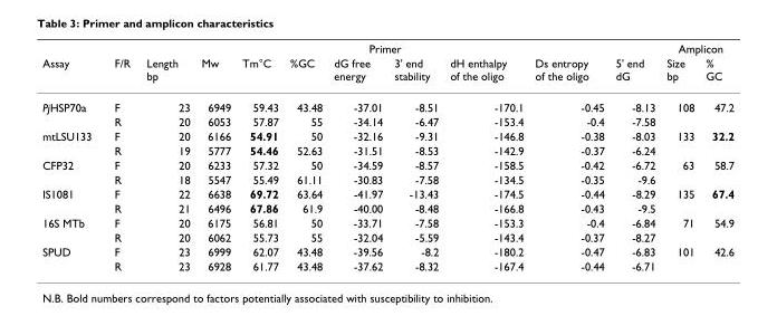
<table><thead><tr><td rowspan="2">Assay</td><td colspan="10">Primer</td><td colspan="2">Amplicon</td></tr><tr><td>F/R</td><td>Length bp</td><td>Mw</td><td>Tm°C</td><td>%GC</td><td>dG free energy</td><td>3&#x27; end stability</td><td>dH enthalpy of the oligo</td><td>Ds entropy of the oligo</td><td>5&#x27; end dG</td><td>Size bp</td><td>% GC</td></tr></thead><tbody><tr><td rowspan="2">PjHSP70a</td><td>F</td><td>23</td><td>6949</td><td>59.43</td><td>43.48</td><td>-37.01</td><td>-8.51</td><td>-170.1</td><td>-0.45</td><td>-8.13</td><td>108</td><td>47.2</td></tr><tr><td>R</td><td>20</td><td>6053</td><td>57.87</td><td>55</td><td>-34.14</td><td>-6.47</td><td>-153.4</td><td>-0.4</td><td>-7.58</td><td></td><td></td></tr><tr><td rowspan="2">mtLSU133</td><td>F</td><td>20</td><td>6166</td><td>54.91</td><td>50</td><td>-32.16</td><td>-9.31</td><td>-146.8</td><td>-0.38</td><td>-8.03</td><td>133</td><td>32.2</td></tr><tr><td>R</td><td>19</td><td>5777</td><td>54.46</td><td>52.63</td><td>-31.51</td><td>-8.53</td><td>-142.9</td><td>-0.37</td><td>-6.24</td><td></td><td></td></tr><tr><td rowspan="2">CFP32</td><td>F</td><td>20</td><td>6233</td><td>57.32</td><td>50</td><td>-34.59</td><td>-8.57</td><td>-158.5</td><td>-0.42</td><td>-6.72</td><td>63</td><td>58.7</td></tr><tr><td>R</td><td>18</td><td>5547</td><td>55.49</td><td>61.11</td><td>-30.83</td><td>-7.58</td><td>-134.5</td><td>-0.35</td><td>-9.6</td><td></td><td></td></tr><tr><td rowspan="2">IS1081</td><td>F</td><td>22</td><td>6638</td><td>69.72</td><td>63.64</td><td>-41.97</td><td>-13.43</td><td>-174.5</td><td>-0.44</td><td>-8.29</td><td>135</td><td>67.4</td></tr><tr><td>R</td><td>21</td><td>6496</td><td>67.86</td><td>61.9</td><td>-40.00</td><td>-8.48</td><td>-166.8</td><td>-0.43</td><td>-9.5</td><td></td><td></td></tr><tr><td rowspan="2">16S MTb</td><td>F</td><td>20</td><td>6175</td><td>56.81</td><td>50</td><td>-33.71</td><td>-7.58</td><td>-153.3</td><td>-0.4</td><td>-6.84</td><td>71</td><td>54.9</td></tr><tr><td>R</td><td>20</td><td>6062</td><td>55.73</td><td>55</td><td>-32.04</td><td>-5.59</td><td>-143.4</td><td>-0.37</td><td>-8.27</td><td></td><td></td></tr><tr><td rowspan="2">SPUD</td><td>F</td><td>23</td><td>6999</td><td>62.07</td><td>43.48</td><td>-39.56</td><td>-8.2</td><td>-180.2</td><td>-0.47</td><td>-6.83</td><td>101</td><td>42.6</td></tr><tr><td>R</td><td>23</td><td>6928</td><td>61.77</td><td>43.48</td><td>-37.62</td><td>-8.32</td><td>-167.4</td><td>-0.44</td><td>-6.71</td><td></td><td></td></tr></tbody></table>